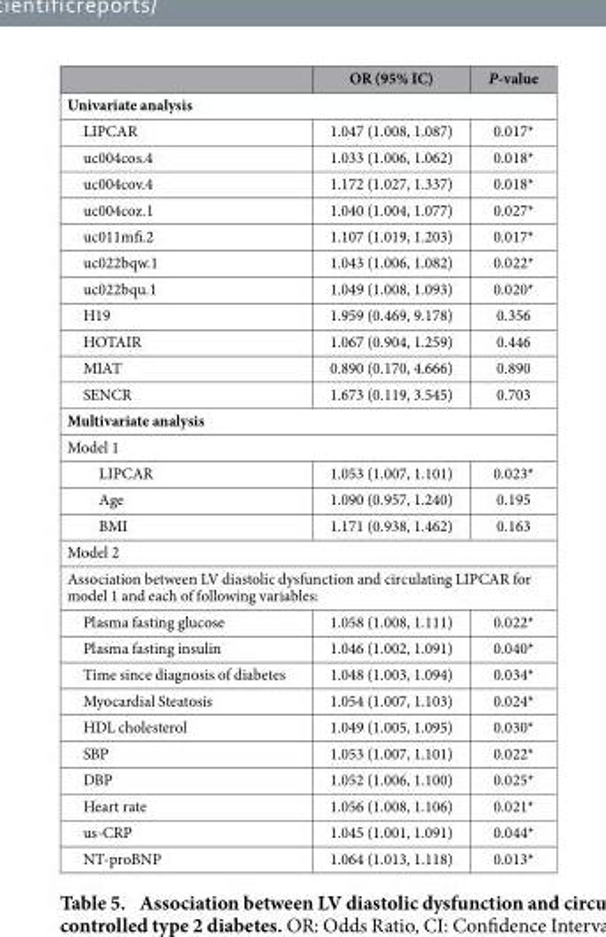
<table><thead><tr><td></td><td>OR (95% IC)</td><td>P-value</td></tr></thead><tbody><tr><td colspan="3">Univariate analysis</td></tr><tr><td>LIPCAR</td><td>1.047 (1.008, 1.087)</td><td>0.017*</td></tr><tr><td>uc004cos.4</td><td>1.033 (1.006, 1.062)</td><td>0.018*</td></tr><tr><td>uc004cov.4</td><td>1.172 (1.027, 1.337)</td><td>0.018*</td></tr><tr><td>uc004coz.1</td><td>1.040 (1.004, 1.077)</td><td>0.027*</td></tr><tr><td>uc011mfi.2</td><td>1.107 (1.019, 1.203)</td><td>0.017*</td></tr><tr><td>uc022bqw.1</td><td>1.043 (1.006, 1.082)</td><td>0.022*</td></tr><tr><td>uc022bqu.1</td><td>1.049 (1.008, 1.093)</td><td>0.020*</td></tr><tr><td>H19</td><td>1.959 (0.469, 9.178)</td><td>0.356</td></tr><tr><td>HOTAIR</td><td>1.067 (0.904, 1.259)</td><td>0.446</td></tr><tr><td>MIAT</td><td>0.890 (0.170, 4.666)</td><td>0.890</td></tr><tr><td>SENCR</td><td>1.673 (0.119, 3.545)</td><td>0.703</td></tr><tr><td colspan="3">Multivariate analysis</td></tr><tr><td colspan="3">Model 1</td></tr><tr><td>LIPCAR</td><td>1.053 (1.007, 1.101)</td><td>0.023*</td></tr><tr><td>Age</td><td>1.090 (0.957, 1.240)</td><td>0.195</td></tr><tr><td>BMI</td><td>1.171 (0.938, 1.462)</td><td>0.163</td></tr><tr><td colspan="3">Model 2</td></tr><tr><td colspan="3">Association between LV diastolic dysfunction and circulating LIPCAR for model 1 and each of following variables:</td></tr><tr><td>Plasma fasting glucose</td><td>1.058 (1.008, 1.111)</td><td>0.022*</td></tr><tr><td>Plasma fasting insulin</td><td>1.046 (1.002, 1.091)</td><td>0.040*</td></tr><tr><td>Time since diagnosis of diabetes</td><td>1.048 (1.003, 1.094)</td><td>0.034*</td></tr><tr><td>Myocardial Steatosis</td><td>1.054 (1.007, 1.103)</td><td>0.024*</td></tr><tr><td>HDL cholesterol</td><td>1.049 (1.005, 1.095)</td><td>0.030*</td></tr><tr><td>SBP</td><td>1.053 (1.007, 1.101)</td><td>0.022*</td></tr><tr><td>DBP</td><td>1.052 (1.006, 1.100)</td><td>0.025*</td></tr><tr><td>Heart rate</td><td>1.056 (1.008, 1.106)</td><td>0.021*</td></tr><tr><td>us-CRP</td><td>1.045 (1.001, 1.091)</td><td>0.044*</td></tr><tr><td>NT-proBNP</td><td>1.064 (1.013, 1.118)</td><td>0.013*</td></tr></tbody></table>